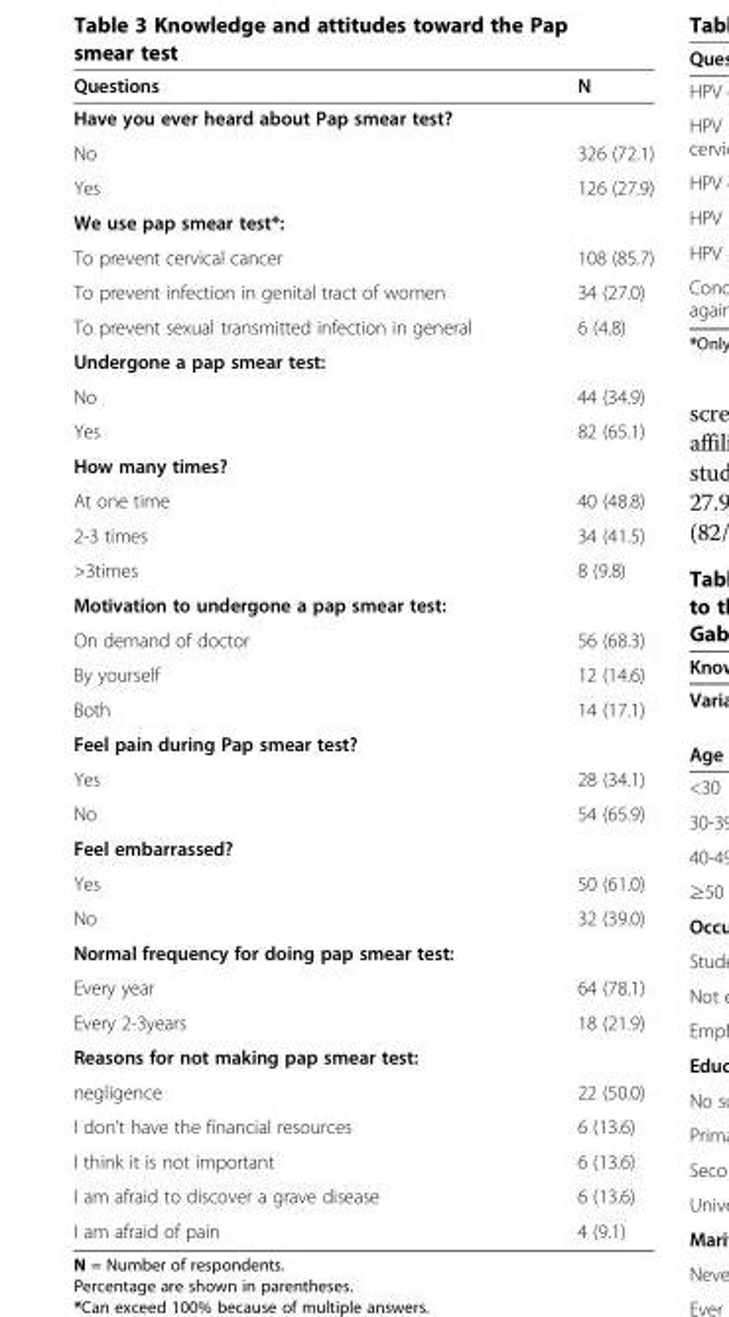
<table><thead><tr><td>Questions</td><td>N</td></tr></thead><tbody><tr><td colspan="2">Have you ever heard about Pap smear test?</td></tr><tr><td>No</td><td>326 (72.1)</td></tr><tr><td>Yes</td><td>126 (27.9)</td></tr><tr><td colspan="2">We use pap smear test*:</td></tr><tr><td>To prevent cervical cancer</td><td>108 (85.7)</td></tr><tr><td>To prevent infection in genital tract of women</td><td>34 (27.0)</td></tr><tr><td>To prevent sexual transmitted infection in general</td><td>6 (4.8)</td></tr><tr><td colspan="2">Undergone a pap smear test:</td></tr><tr><td>No</td><td>44 (34.9)</td></tr><tr><td>Yes</td><td>82 (65.1)</td></tr><tr><td colspan="2">How many times?</td></tr><tr><td>At one time</td><td>40 (48.8)</td></tr><tr><td>2-3 times</td><td>34 (41.5)</td></tr><tr><td>&gt;3times</td><td>8 (9.8)</td></tr><tr><td colspan="2">Motivation to undergone a pap smear test:</td></tr><tr><td>On demand of doctor</td><td>56 (68.3)</td></tr><tr><td>By yourself</td><td>12 (14.6)</td></tr><tr><td>Both</td><td>14 (17.1)</td></tr><tr><td colspan="2">Feel pain during Pap smear test?</td></tr><tr><td>Yes</td><td>28 (34.1)</td></tr><tr><td>No</td><td>54 (65.9)</td></tr><tr><td colspan="2">Feel embarrassed?</td></tr><tr><td>Yes</td><td>50 (61.0)</td></tr><tr><td>No</td><td>32 (39.0)</td></tr><tr><td colspan="2">Normal frequency for doing pap smear test:</td></tr><tr><td>Every year</td><td>64 (78.1)</td></tr><tr><td>Every 2-3years</td><td>18 (21.9)</td></tr><tr><td colspan="2">Reasons for not making pap smear test:</td></tr><tr><td>negligence</td><td>22 (50.0)</td></tr><tr><td>I don’t have the financial resources</td><td>6 (13.6)</td></tr><tr><td>I think it is not important</td><td>6 (13.6)</td></tr><tr><td>I am afraid to discover a grave disease</td><td>6 (13.6)</td></tr><tr><td>I am afraid of pain</td><td>4 (9.1)</td></tr></tbody></table>